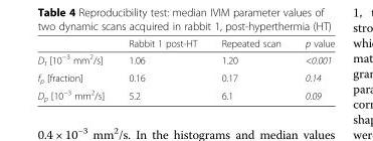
<table><thead><tr><td></td><td>Rabbit 1 post-HT</td><td>Repeated scan</td><td>p value</td></tr></thead><tbody><tr><td>D<sub>t</sub> [10<sup>−3</sup> mm<sup>2</sup>/s]</td><td>1.06</td><td>1.20</td><td>&lt;0.001</td></tr><tr><td>f<sub>p</sub> [fraction]</td><td>0.16</td><td>0.17</td><td>0.14</td></tr><tr><td>D<sub>p</sub> [10<sup>−3</sup> mm<sup>2</sup>/s]</td><td>5.2</td><td>6.1</td><td>0.09</td></tr></tbody></table>